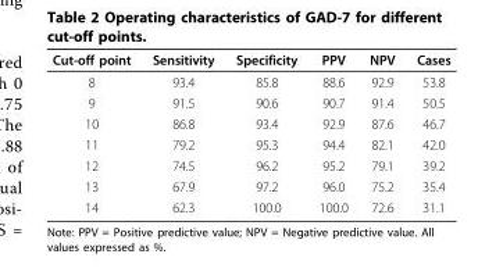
<table><thead><tr><td>Cut-off point</td><td>Sensitivity</td><td>Specificity</td><td>PPV</td><td>NPV</td><td>Cases</td></tr></thead><tbody><tr><td>8</td><td>93.4</td><td>85.8</td><td>88.6</td><td>92.9</td><td>53.8</td></tr><tr><td>9</td><td>91.5</td><td>90.6</td><td>90.7</td><td>91.4</td><td>50.5</td></tr><tr><td>10</td><td>86.8</td><td>93.4</td><td>92.9</td><td>87.6</td><td>46.7</td></tr><tr><td>11</td><td>79.2</td><td>95.3</td><td>94.4</td><td>82.1</td><td>42.0</td></tr><tr><td>12</td><td>74.5</td><td>96.2</td><td>95.2</td><td>79.1</td><td>39.2</td></tr><tr><td>13</td><td>67.9</td><td>97.2</td><td>96.0</td><td>75.2</td><td>35.4</td></tr><tr><td>14</td><td>62.3</td><td>100.0</td><td>100.0</td><td>72.6</td><td>31.1</td></tr></tbody></table>